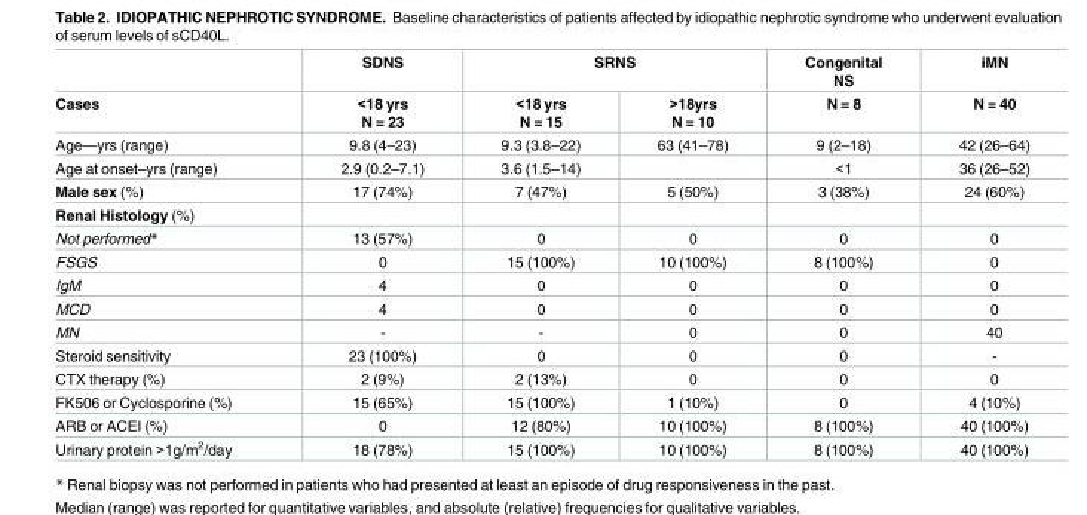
<table><thead><tr><td rowspan="2">Cases</td><td rowspan="2">SDNS &lt;18 yrs N = 23</td><td colspan="2">SRNS</td><td rowspan="2">Congenital NS N = 8</td><td rowspan="2">iMN N = 40</td></tr><tr><td>&lt;18 yrs N = 15</td><td>&gt;18yrs N = 10</td></tr></thead><tbody><tr><td>Age—yrs (range)</td><td>9.8 (4–23)</td><td>9.3 (3.8–22)</td><td>63 (41–78)</td><td>9 (2–18)</td><td>42 (26–64)</td></tr><tr><td>Age at onset–yrs (range)</td><td>2.9 (0.2–7.1)</td><td>3.6 (1.5–14)</td><td></td><td>&lt;1</td><td>36 (26–52)</td></tr><tr><td>Male sex (%)</td><td>17 (74%)</td><td>7 (47%)</td><td>5 (50%)</td><td>3 (38%)</td><td>24 (60%)</td></tr><tr><td colspan="6">Renal Histology (%)</td></tr><tr><td>Not performed*</td><td>13 (57%)</td><td>0</td><td>0</td><td>0</td><td>0</td></tr><tr><td>FSGS</td><td>0</td><td>15 (100%)</td><td>10 (100%)</td><td>8 (100%)</td><td>0</td></tr><tr><td>IgM</td><td>4</td><td>0</td><td>0</td><td>0</td><td>0</td></tr><tr><td>MCD</td><td>4</td><td>0</td><td>0</td><td>0</td><td>0</td></tr><tr><td>MN</td><td>-</td><td>-</td><td>0</td><td>0</td><td>40</td></tr><tr><td>Steroid sensitivity</td><td>23 (100%)</td><td>0</td><td>0</td><td>0</td><td>-</td></tr><tr><td>CTX therapy (%)</td><td>2 (9%)</td><td>2 (13%)</td><td>0</td><td>0</td><td>0</td></tr><tr><td>FK506 or Cyclosporine (%)</td><td>15 (65%)</td><td>15 (100%)</td><td>1 (10%)</td><td>0</td><td>4 (10%)</td></tr><tr><td>ARB or ACEI (%)</td><td>0</td><td>12 (80%)</td><td>10 (100%)</td><td>8 (100%)</td><td>40 (100%)</td></tr><tr><td>Urinary protein &gt;1g/m<sup>2</sup>/day</td><td>18 (78%)</td><td>15 (100%)</td><td>10 (100%)</td><td>8 (100%)</td><td>40 (100%)</td></tr></tbody></table>